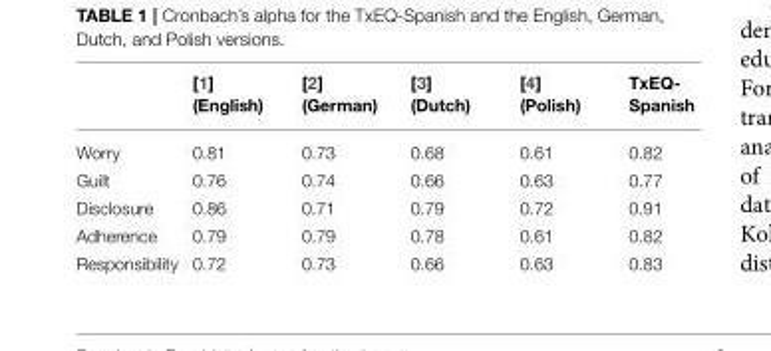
<table><thead><tr><td></td><td>[1] (English)</td><td>[2] (German)</td><td>[3] (Dutch)</td><td>[4] (Polish)</td><td>TxEQ- Spanish</td></tr></thead><tbody><tr><td>Worry</td><td>0.81</td><td>0.73</td><td>0.68</td><td>0.61</td><td>0.82</td></tr><tr><td>Guilt</td><td>0.76</td><td>0.74</td><td>0.66</td><td>0.63</td><td>0.77</td></tr><tr><td>Disclosure</td><td>0.86</td><td>0.71</td><td>0.79</td><td>0.72</td><td>0.91</td></tr><tr><td>Adherence</td><td>0.79</td><td>0.79</td><td>0.78</td><td>0.61</td><td>0.82</td></tr><tr><td>Responsibility</td><td>0.72</td><td>0.73</td><td>0.66</td><td>0.63</td><td>0.83</td></tr></tbody></table>